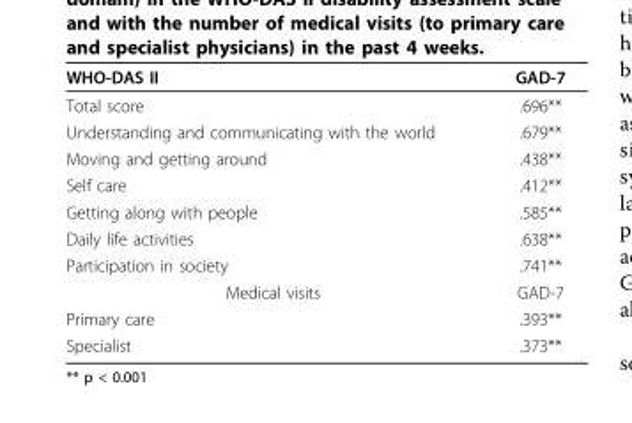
<table><thead><tr><td>WHO-DAS II</td><td>GAD-7</td></tr></thead><tbody><tr><td>Total score</td><td>.696**</td></tr><tr><td>Understanding and communicating with the world</td><td>.679**</td></tr><tr><td>Moving and getting around</td><td>.438**</td></tr><tr><td>Self care</td><td>.412**</td></tr><tr><td>Getting along with people</td><td>.585**</td></tr><tr><td>Daily life activities</td><td>.638**</td></tr><tr><td>Participation in society</td><td>.741**</td></tr><tr><td>Medical visits</td><td>GAD-7</td></tr><tr><td>Primary care</td><td>.393**</td></tr><tr><td>Specialist</td><td>.373**</td></tr></tbody></table>